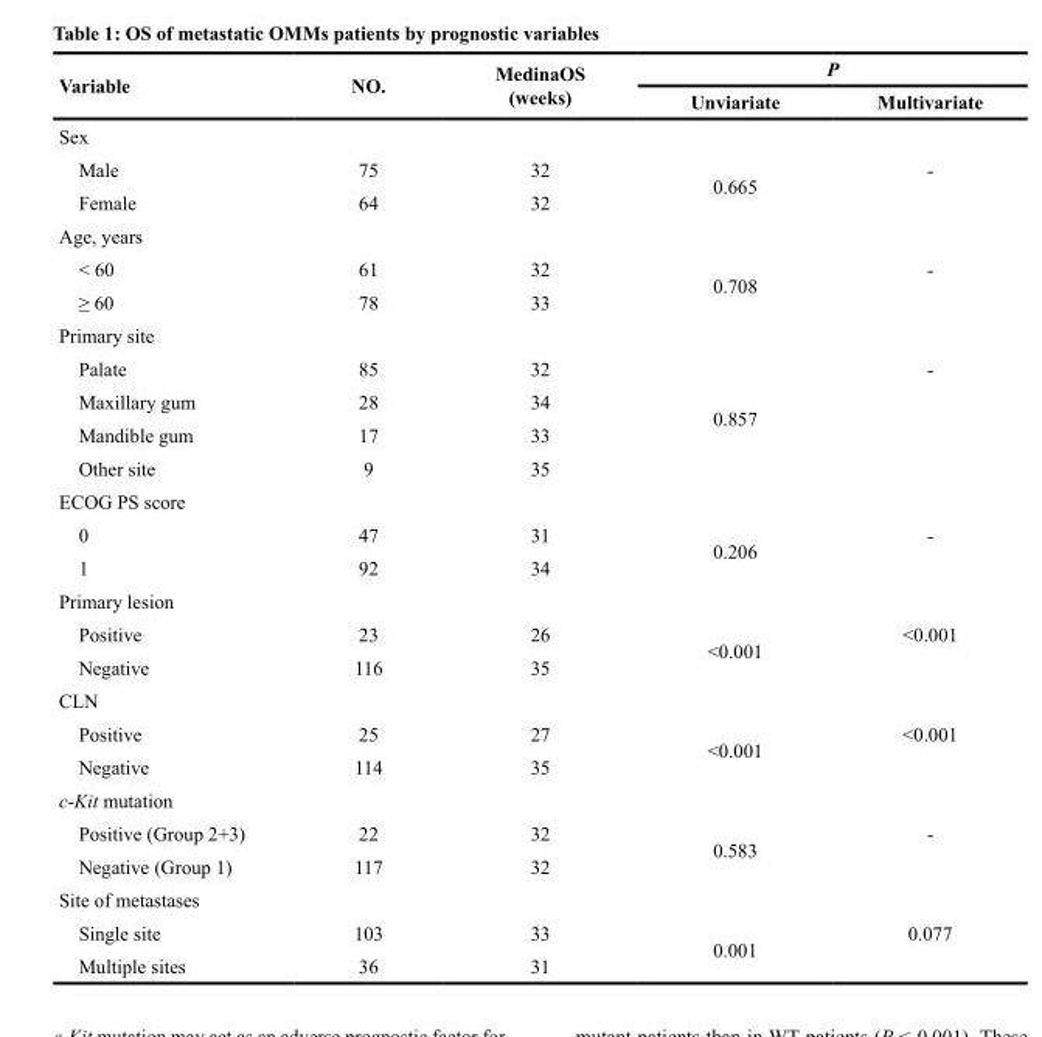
<table><thead><tr><td rowspan="2">Variable</td><td rowspan="2">NO.</td><td rowspan="2">MedinaOS (weeks)</td><td colspan="2">P</td></tr><tr><td>Unviariate</td><td>Multivariate</td></tr></thead><tbody><tr><td colspan="5">Sex</td></tr><tr><td>Male</td><td>75</td><td>32</td><td rowspan="2">0.665</td><td>-</td></tr><tr><td>Female</td><td>64</td><td>32</td><td></td></tr><tr><td colspan="5">Age, years</td></tr><tr><td>&lt; 60</td><td>61</td><td>32</td><td rowspan="2">0.708</td><td>-</td></tr><tr><td>≥ 60</td><td>78</td><td>33</td><td></td></tr><tr><td colspan="5">Primary site</td></tr><tr><td>Palate</td><td>85</td><td>32</td><td rowspan="4">0.857</td><td>-</td></tr><tr><td>Maxillary gum</td><td>28</td><td>34</td><td></td></tr><tr><td>Mandible gum</td><td>17</td><td>33</td><td></td></tr><tr><td>Other site</td><td>9</td><td>35</td><td></td></tr><tr><td colspan="5">ECOG PS score</td></tr><tr><td>0</td><td>47</td><td>31</td><td rowspan="2">0.206</td><td>-</td></tr><tr><td>1</td><td>92</td><td>34</td><td></td></tr><tr><td colspan="5">Primary lesion</td></tr><tr><td>Positive</td><td>23</td><td>26</td><td rowspan="2">&lt;0.001</td><td>&lt;0.001</td></tr><tr><td>Negative</td><td>116</td><td>35</td><td></td></tr><tr><td colspan="5">CLN</td></tr><tr><td>Positive</td><td>25</td><td>27</td><td rowspan="2">&lt;0.001</td><td>&lt;0.001</td></tr><tr><td>Negative</td><td>114</td><td>35</td><td></td></tr><tr><td colspan="5">c-Kit mutation</td></tr><tr><td>Positive (Group 2+3)</td><td>22</td><td>32</td><td rowspan="2">0.583</td><td>-</td></tr><tr><td>Negative (Group 1)</td><td>117</td><td>32</td><td></td></tr><tr><td colspan="5">Site of metastases</td></tr><tr><td>Single site</td><td>103</td><td>33</td><td rowspan="2">0.001</td><td>0.077</td></tr><tr><td>Multiple sites</td><td>36</td><td>31</td><td></td></tr></tbody></table>